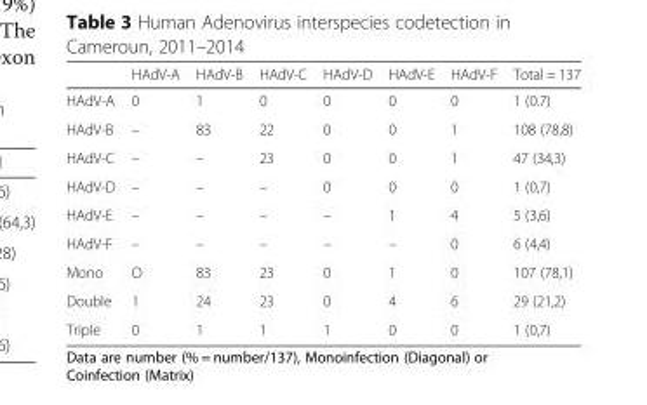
<table><thead><tr><td></td><td>HAdV-A</td><td>HAdV-B</td><td>HAdV-C</td><td>HAdV-D</td><td>HAdV-E</td><td>HAdV-F</td><td>Total = 137</td></tr></thead><tbody><tr><td>HAdV-A</td><td>0</td><td>1</td><td>0</td><td>0</td><td>0</td><td>0</td><td>1 (0.7)</td></tr><tr><td>HAdV-B</td><td>–</td><td>83</td><td>22</td><td>0</td><td>0</td><td>1</td><td>108 (78,8)</td></tr><tr><td>HAdV-C</td><td>–</td><td>–</td><td>23</td><td>0</td><td>0</td><td>1</td><td>47 (34,3)</td></tr><tr><td>HAdV-D</td><td>–</td><td>–</td><td>–</td><td>0</td><td>0</td><td>0</td><td>1 (0,7)</td></tr><tr><td>HAdV-E</td><td>–</td><td>–</td><td>–</td><td>–</td><td>1</td><td>4</td><td>5 (3,6)</td></tr><tr><td>HAdV-F</td><td>–</td><td>–</td><td>–</td><td>–</td><td>–</td><td>0</td><td>6 (4,4)</td></tr><tr><td>Mono</td><td>O</td><td>83</td><td>23</td><td>0</td><td>1</td><td>0</td><td>107 (78,1)</td></tr><tr><td>Double</td><td>1</td><td>24</td><td>23</td><td>0</td><td>4</td><td>6</td><td>29 (21,2)</td></tr><tr><td>Triple</td><td>0</td><td>1</td><td>1</td><td>1</td><td>0</td><td>0</td><td>1 (0,7)</td></tr></tbody></table>